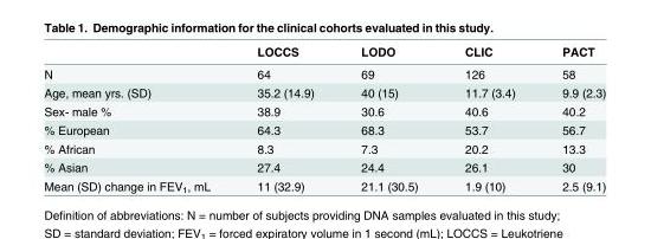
<table><thead><tr><td></td><td>LOCCS</td><td>LODO</td><td>CLIC</td><td>PACT</td></tr></thead><tbody><tr><td>N</td><td>64</td><td>69</td><td>126</td><td>58</td></tr><tr><td>Age, mean yrs. (SD)</td><td>35.2 (14.9)</td><td>40 (15)</td><td>11.7 (3.4)</td><td>9.9 (2.3)</td></tr><tr><td>Sex- male %</td><td>38.9</td><td>30.6</td><td>40.6</td><td>40.2</td></tr><tr><td>% European</td><td>64.3</td><td>68.3</td><td>53.7</td><td>56.7</td></tr><tr><td>% African</td><td>8.3</td><td>7.3</td><td>20.2</td><td>13.3</td></tr><tr><td>% Asian</td><td>27.4</td><td>24.4</td><td>26.1</td><td>30</td></tr><tr><td>Mean (SD) change in FEV<sub>1</sub>, mL</td><td>11 (32.9)</td><td>21.1 (30.5)</td><td>1.9 (10)</td><td>2.5 (9.1)</td></tr></tbody></table>